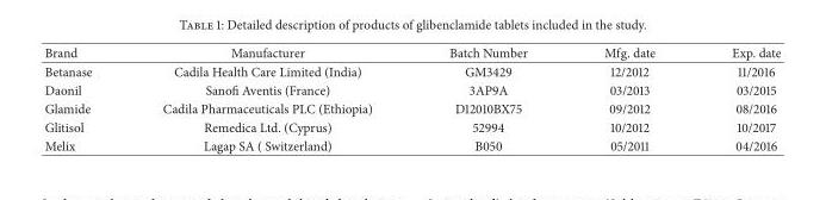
<table><thead><tr><td>Brand</td><td>Manufacturer</td><td>Batch Number</td><td>Mfg. date</td><td>Exp. date</td></tr></thead><tbody><tr><td>Betanase</td><td>Cadila Health Care Limited (India)</td><td>GM3429</td><td>12/2012</td><td>11/2016</td></tr><tr><td>Daonil</td><td>Sanofi Aventis (France)</td><td>3AP9A</td><td>03/2013</td><td>03/2015</td></tr><tr><td>Glamide</td><td>Cadila Pharmaceuticals PLC (Ethiopia)</td><td>D12010BX75</td><td>09/2012</td><td>08/2016</td></tr><tr><td>Glitisol</td><td>Remedica Ltd. (Cyprus)</td><td>52994</td><td>10/2012</td><td>10/2017</td></tr><tr><td>Melix</td><td>Lagap SA ( Switzerland)</td><td>B050</td><td>05/2011</td><td>04/2016</td></tr></tbody></table>